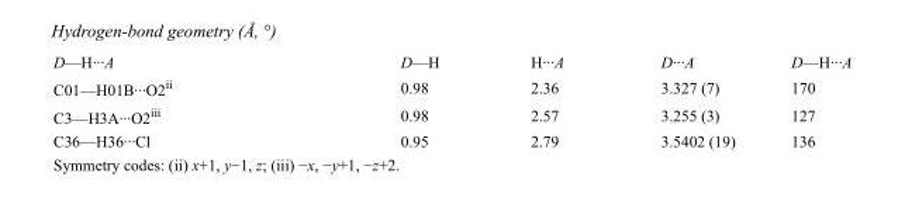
<table><tbody><tr><td>D—H···A</td><td>D—H</td><td>H···A</td><td>D···A</td><td>D—H···A</td></tr><tr><td>C01—H01B···O2<sup>ii</sup></td><td>0.98</td><td>2.36</td><td>3.327 (7)</td><td>170</td></tr><tr><td>C3—H3A···O2<sup>iii</sup></td><td>0.98</td><td>2.57</td><td>3.255 (3)</td><td>127</td></tr><tr><td>C36—H36···Cl</td><td>0.95</td><td>2.79</td><td>3.5402 (19)</td><td>136</td></tr></tbody></table>